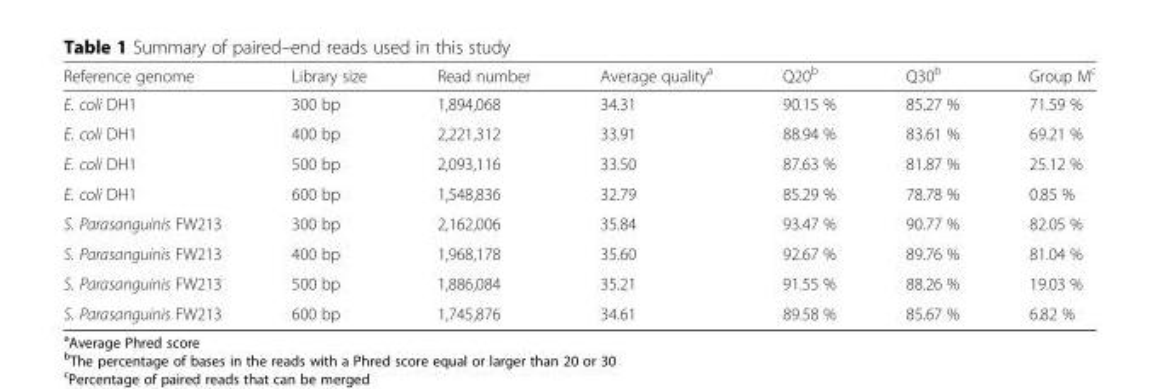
<table><thead><tr><td>Reference genome</td><td>Library size</td><td>Read number</td><td>Average quality<sup>a</sup></td><td>Q20<sup>b</sup></td><td>Q30<sup>b</sup></td><td>Group M<sup>c</sup></td></tr></thead><tbody><tr><td>E. coli DH1</td><td>300 bp</td><td>1,894,068</td><td>34.31</td><td>90.15 %</td><td>85.27 %</td><td>71.59 %</td></tr><tr><td>E. coli DH1</td><td>400 bp</td><td>2,221,312</td><td>33.91</td><td>88.94 %</td><td>83.61 %</td><td>69.21 %</td></tr><tr><td>E. coli DH1</td><td>500 bp</td><td>2,093,116</td><td>33.50</td><td>87.63 %</td><td>81.87 %</td><td>25.12 %</td></tr><tr><td>E. coli DH1</td><td>600 bp</td><td>1,548,836</td><td>32.79</td><td>85.29 %</td><td>78.78 %</td><td>0.85 %</td></tr><tr><td>S. Parasanguinis FW213</td><td>300 bp</td><td>2,162,006</td><td>35.84</td><td>93.47 %</td><td>90.77 %</td><td>82.05 %</td></tr><tr><td>S. Parasanguinis FW213</td><td>400 bp</td><td>1,968,178</td><td>35.60</td><td>92.67 %</td><td>89.76 %</td><td>81.04 %</td></tr><tr><td>S. Parasanguinis FW213</td><td>500 bp</td><td>1,886,084</td><td>35.21</td><td>91.55 %</td><td>88.26 %</td><td>19.03 %</td></tr><tr><td>S. Parasanguinis FW213</td><td>600 bp</td><td>1,745,876</td><td>34.61</td><td>89.58 %</td><td>85.67 %</td><td>6.82 %</td></tr></tbody></table>